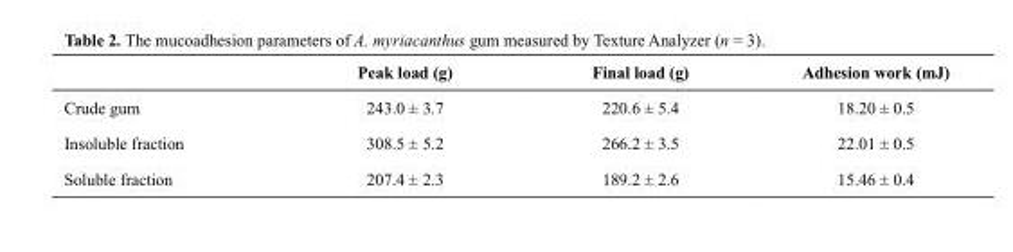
<table><thead><tr><td></td><td>Peak load (g)</td><td>Final load (g)</td><td>Adhesion work (mJ)</td></tr></thead><tbody><tr><td>Crude gum</td><td>243.0 ± 3.7</td><td>220.6 ± 5.4</td><td>18.20 ± 0.5</td></tr><tr><td>Insoluble fraction</td><td>308.5 ± 5.2</td><td>266.2 ± 3.5</td><td>22.01 ± 0.5</td></tr><tr><td>Soluble fraction</td><td>207.4 ± 2.3</td><td>189.2 ± 2.6</td><td>15.46 ± 0.4</td></tr></tbody></table>